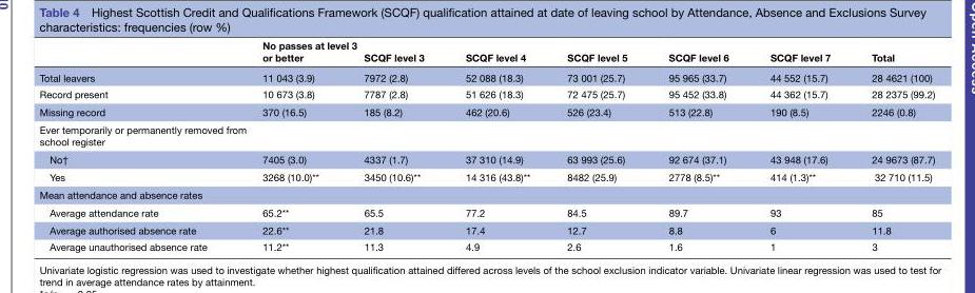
<table><thead><tr><td></td><td>No passes at level 3 or better</td><td>SCQF level 3</td><td>SCQF level 4</td><td>SCQF level 5</td><td>SCQF level 6</td><td>SCQF level 7</td><td>Total</td></tr></thead><tbody><tr><td>Total leavers</td><td>11 043 (3.9)</td><td>7972 (2.8)</td><td>52 088 (18.3)</td><td>73 001 (25.7)</td><td>95 965 (33.7)</td><td>44 552 (15.7)</td><td>28 4621 (100)</td></tr><tr><td>Record present</td><td>10 673 (3.8)</td><td>7787 (2.8)</td><td>51 626 (18.3)</td><td>72 475 (25.7)</td><td>95 452 (33.8)</td><td>44 362 (15.7)</td><td>28 2375 (99.2)</td></tr><tr><td>Missing record</td><td>370 (16.5)</td><td>185 (8.2)</td><td>462 (20.6)</td><td>526 (23.4)</td><td>513 (22.8)</td><td>190 (8.5)</td><td>2246 (0.8)</td></tr><tr><td colspan="8">Ever temporarily or permanently removed from school register</td></tr><tr><td>No†</td><td>7405 (3.0)</td><td>4337 (1.7)</td><td>37 310 (14.9)</td><td>63 993 (25.6)</td><td>92 674 (37.1)</td><td>43 948 (17.6)</td><td>24 9673 (87.7)</td></tr><tr><td>Yes</td><td>3268 (10.0)**</td><td>3450 (10.6)**</td><td>14 316 (43.8)**</td><td>8482 (25.9)</td><td>2778 (8.5)**</td><td>414 (1.3)**</td><td>32 710 (11.5)</td></tr><tr><td colspan="8">Mean attendance and absence rates</td></tr><tr><td>Average attendance rate</td><td>65.2**</td><td>65.5</td><td>77.2</td><td>84.5</td><td>89.7</td><td>93</td><td>85</td></tr><tr><td>Average authorised absence rate</td><td>22.6**</td><td>21.8</td><td>17.4</td><td>12.7</td><td>8.8</td><td>6</td><td>11.8</td></tr><tr><td>Average unauthorised absence rate</td><td>11.2**</td><td>11.3</td><td>4.9</td><td>2.6</td><td>1.6</td><td>1</td><td>3</td></tr></tbody></table>